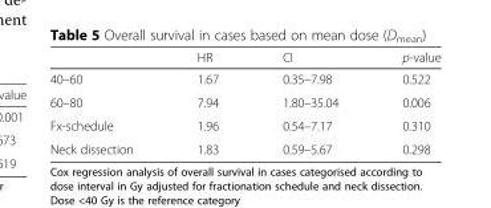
<table><thead><tr><td></td><td>HR</td><td>CI</td><td>p-value</td></tr></thead><tbody><tr><td>40–60</td><td>1.67</td><td>0.35–7.98</td><td>0.522</td></tr><tr><td>60–80</td><td>7.94</td><td>1.80–35.04</td><td>0.006</td></tr><tr><td>Fx-schedule</td><td>1.96</td><td>0.54–7.17</td><td>0.310</td></tr><tr><td>Neck dissection</td><td>1.83</td><td>0.59–5.67</td><td>0.298</td></tr></tbody></table>